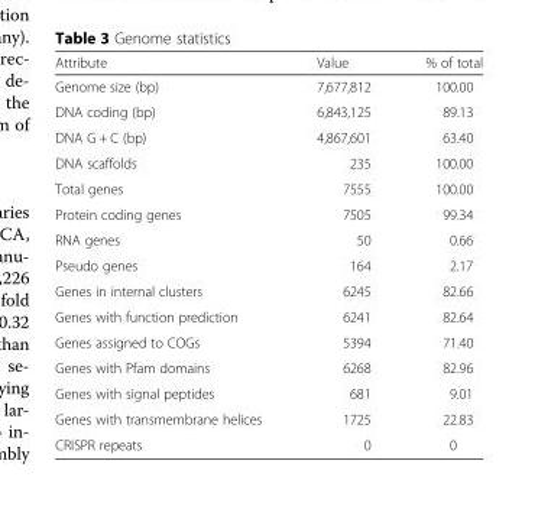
<table><thead><tr><td>Attribute</td><td>Value</td><td>% of total</td></tr></thead><tbody><tr><td>Genome size (bp)</td><td>7,677,812</td><td>100.00</td></tr><tr><td>DNA coding (bp)</td><td>6,843,125</td><td>89.13</td></tr><tr><td>DNA G + C (bp)</td><td>4,867,601</td><td>63.40</td></tr><tr><td>DNA scaffolds</td><td>235</td><td>100.00</td></tr><tr><td>Total genes</td><td>7555</td><td>100.00</td></tr><tr><td>Protein coding genes</td><td>7505</td><td>99.34</td></tr><tr><td>RNA genes</td><td>50</td><td>0.66</td></tr><tr><td>Pseudo genes</td><td>164</td><td>2.17</td></tr><tr><td>Genes in internal clusters</td><td>6245</td><td>82.66</td></tr><tr><td>Genes with function prediction</td><td>6241</td><td>82.64</td></tr><tr><td>Genes assigned to COGs</td><td>5394</td><td>71.40</td></tr><tr><td>Genes with Pfam domains</td><td>6268</td><td>82.96</td></tr><tr><td>Genes with signal peptides</td><td>681</td><td>9.01</td></tr><tr><td>Genes with transmembrane helices</td><td>1725</td><td>22.83</td></tr><tr><td>CRISPR repeats</td><td>0</td><td>0</td></tr></tbody></table>